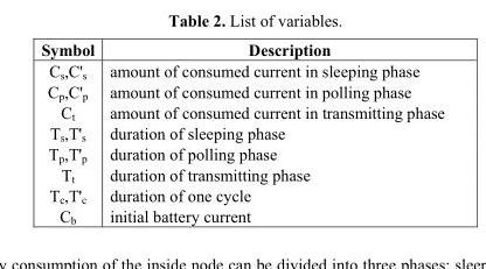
<table><thead><tr><td>Symbol</td><td>Description</td></tr></thead><tbody><tr><td>C<sub>s</sub>,C&#x27;<sub>s</sub></td><td>amount of consumed current in sleeping phase</td></tr><tr><td>C<sub>p</sub>,C&#x27;<sub>p</sub></td><td>amount of consumed current in polling phase</td></tr><tr><td>C<sub>t</sub></td><td>amount of consumed current in transmitting phase</td></tr><tr><td>T<sub>s</sub>,T&#x27;<sub>s</sub></td><td>duration of sleeping phase</td></tr><tr><td>T<sub>p</sub>,T&#x27;<sub>p</sub></td><td>duration of polling phase</td></tr><tr><td>T<sub>t</sub></td><td>duration of transmitting phase</td></tr><tr><td>T<sub>c</sub>,T&#x27;<sub>c</sub></td><td>duration of one cycle</td></tr><tr><td>C<sub>b</sub></td><td>initial battery current</td></tr></tbody></table>